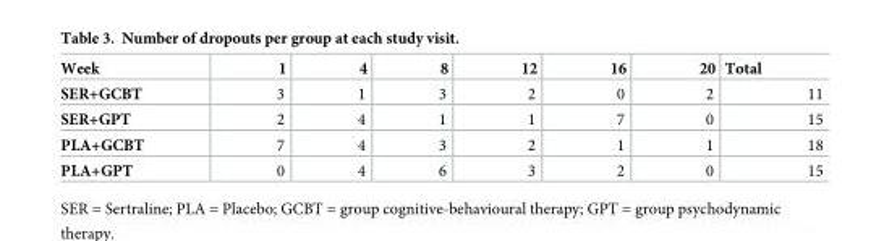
<table><thead><tr><td>Week</td><td>1</td><td>4</td><td>8</td><td>12</td><td>16</td><td>20</td><td>Total</td></tr></thead><tbody><tr><td>SER+GCBT</td><td>3</td><td>1</td><td>3</td><td>2</td><td>0</td><td>2</td><td>11</td></tr><tr><td>SER+GPT</td><td>2</td><td>4</td><td>1</td><td>1</td><td>7</td><td>0</td><td>15</td></tr><tr><td>PLA+GCBT</td><td>7</td><td>4</td><td>3</td><td>2</td><td>1</td><td>1</td><td>18</td></tr><tr><td>PLA+GPT</td><td>0</td><td>4</td><td>6</td><td>3</td><td>2</td><td>0</td><td>15</td></tr></tbody></table>